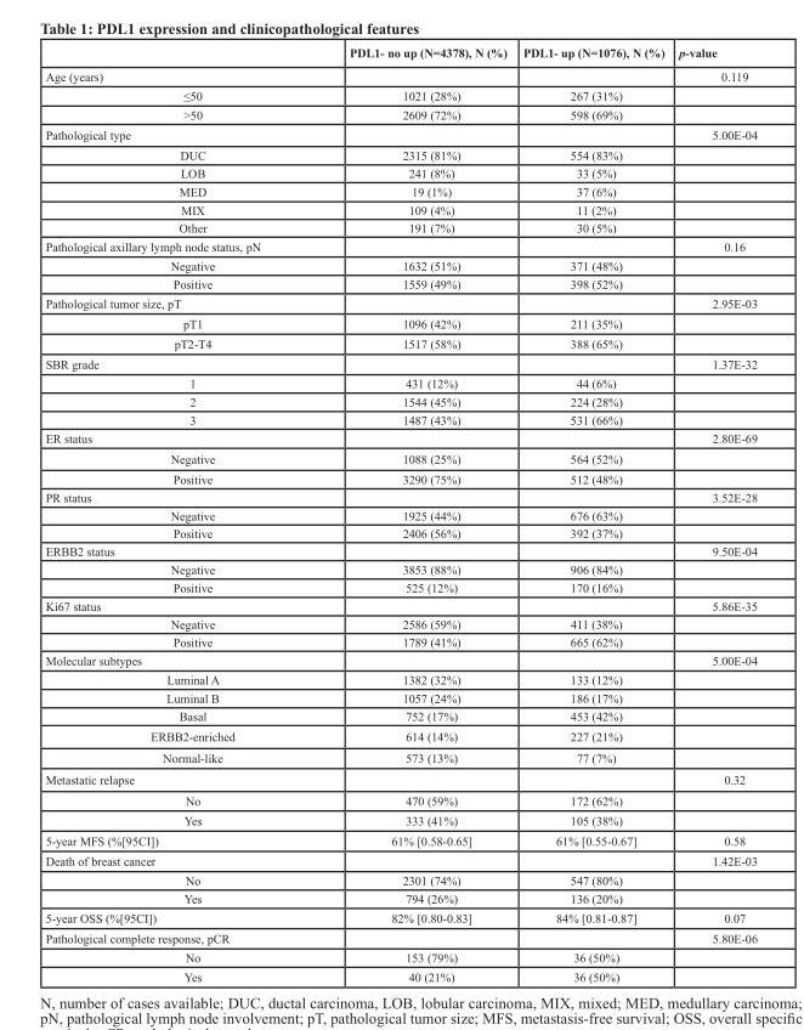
<table><thead><tr><td></td><td>PDL1- no up (N=4378), N (%)</td><td>PDL1- up (N=1076), N (%)</td><td>p-value</td></tr></thead><tbody><tr><td>Age (years)</td><td></td><td></td><td>0.119</td></tr><tr><td>≤50</td><td>1021 (28%)</td><td>267 (31%)</td><td></td></tr><tr><td>&gt;50</td><td>2609 (72%)</td><td>598 (69%)</td><td></td></tr><tr><td>Pathological type</td><td></td><td></td><td>5.00E-04</td></tr><tr><td>DUC</td><td>2315 (81%)</td><td>554 (83%)</td><td></td></tr><tr><td>LOB</td><td>241 (8%)</td><td>33 (5%)</td><td></td></tr><tr><td>MED</td><td>19 (1%)</td><td>37 (6%)</td><td></td></tr><tr><td>MIX</td><td>109 (4%)</td><td>11 (2%)</td><td></td></tr><tr><td>Other</td><td>191 (7%)</td><td>30 (5%)</td><td></td></tr><tr><td>Pathological axillary lymph node status, pN</td><td></td><td></td><td>0.16</td></tr><tr><td>Negative</td><td>1632 (51%)</td><td>371 (48%)</td><td></td></tr><tr><td>Positive</td><td>1559 (49%)</td><td>398 (52%)</td><td></td></tr><tr><td>Pathological tumor size, pT</td><td></td><td></td><td>2.95E-03</td></tr><tr><td>pT1</td><td>1096 (42%)</td><td>211 (35%)</td><td></td></tr><tr><td>pT2-T4</td><td>1517 (58%)</td><td>388 (65%)</td><td></td></tr><tr><td>SBR grade</td><td></td><td></td><td>1.37E-32</td></tr><tr><td>1</td><td>431 (12%)</td><td>44 (6%)</td><td></td></tr><tr><td>2</td><td>1544 (45%)</td><td>224 (28%)</td><td></td></tr><tr><td>3</td><td>1487 (43%)</td><td>531 (66%)</td><td></td></tr><tr><td>ER status</td><td></td><td></td><td>2.80E-69</td></tr><tr><td>Negative</td><td>1088 (25%)</td><td>564 (52%)</td><td></td></tr><tr><td>Positive</td><td>3290 (75%)</td><td>512 (48%)</td><td></td></tr><tr><td>PR status</td><td></td><td></td><td>3.52E-28</td></tr><tr><td>Negative</td><td>1925 (44%)</td><td>676 (63%)</td><td></td></tr><tr><td>Positive</td><td>2406 (56%)</td><td>392 (37%)</td><td></td></tr><tr><td>ERBB2 status</td><td></td><td></td><td>9.50E-04</td></tr><tr><td>Negative</td><td>3853 (88%)</td><td>906 (84%)</td><td></td></tr><tr><td>Positive</td><td>525 (12%)</td><td>170 (16%)</td><td></td></tr><tr><td>Ki67 status</td><td></td><td></td><td>5.86E-35</td></tr><tr><td>Negative</td><td>2586 (59%)</td><td>411 (38%)</td><td></td></tr><tr><td>Positive</td><td>1789 (41%)</td><td>665 (62%)</td><td></td></tr><tr><td>Molecular subtypes</td><td></td><td></td><td>5.00E-04</td></tr><tr><td>Luminal A</td><td>1382 (32%)</td><td>133 (12%)</td><td></td></tr><tr><td>Luminal B</td><td>1057 (24%)</td><td>186 (17%)</td><td></td></tr><tr><td>Basal</td><td>752 (17%)</td><td>453 (42%)</td><td></td></tr><tr><td>ERBB2-enriched</td><td>614 (14%)</td><td>227 (21%)</td><td></td></tr><tr><td>Normal-like</td><td>573 (13%)</td><td>77 (7%)</td><td></td></tr><tr><td>Metastatic relapse</td><td></td><td></td><td>0.32</td></tr><tr><td>No</td><td>470 (59%)</td><td>172 (62%)</td><td></td></tr><tr><td>Yes</td><td>333 (41%)</td><td>105 (38%)</td><td></td></tr><tr><td>5-year MFS (%[95CI])</td><td>61% [0.58-0.65]</td><td>61% [0.55-0.67]</td><td>0.58</td></tr><tr><td>Death of breast cancer</td><td></td><td></td><td>1.42E-03</td></tr><tr><td>No</td><td>2301 (74%)</td><td>547 (80%)</td><td></td></tr><tr><td>Yes</td><td>794 (26%)</td><td>136 (20%)</td><td></td></tr><tr><td>5-year OSS (%[95CI])</td><td>82% [0.80-0.83]</td><td>84% [0.81-0.87]</td><td>0.07</td></tr><tr><td>Pathological complete response, pCR</td><td></td><td></td><td>5.80E-06</td></tr><tr><td>No</td><td>153 (79%)</td><td>36 (50%)</td><td></td></tr><tr><td>Yes</td><td>40 (21%)</td><td>36 (50%)</td><td></td></tr></tbody></table>